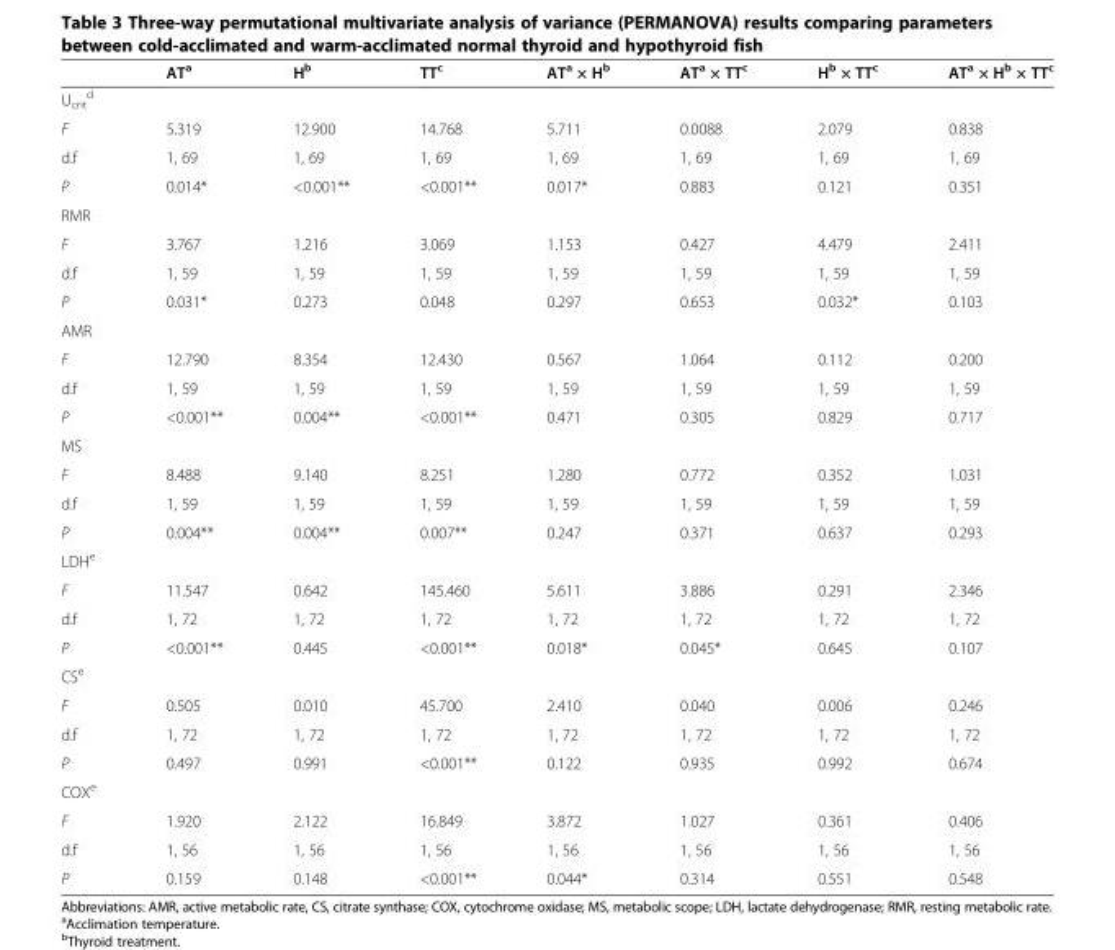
<table><thead><tr><td></td><td>AT<sup>a</sup></td><td>H<sup>b</sup></td><td>TT<sup>c</sup></td><td>AT<sup>a</sup> × H<sup>b</sup></td><td>AT<sup>a</sup> × TT<sup>c</sup></td><td>H<sup>b</sup> × TT<sup>c</sup></td><td>AT<sup>a</sup> × H<sup>b</sup> × TT<sup>c</sup></td></tr></thead><tbody><tr><td colspan="8">U<sub>crit</sub> <sup>d</sup></td></tr><tr><td>F</td><td>5.319</td><td>12.900</td><td>14.768</td><td>5.711</td><td>0.0088</td><td>2.079</td><td>0.838</td></tr><tr><td>d.f</td><td>1, 69</td><td>1, 69</td><td>1, 69</td><td>1, 69</td><td>1, 69</td><td>1, 69</td><td>1, 69</td></tr><tr><td>P</td><td>0.014*</td><td>&lt;0.001**</td><td>&lt;0.001**</td><td>0.017*</td><td>0.883</td><td>0.121</td><td>0.351</td></tr><tr><td colspan="8">RMR</td></tr><tr><td>F</td><td>3.767</td><td>1.216</td><td>3.069</td><td>1.153</td><td>0.427</td><td>4.479</td><td>2.411</td></tr><tr><td>d.f</td><td>1, 59</td><td>1, 59</td><td>1, 59</td><td>1, 59</td><td>1, 59</td><td>1, 59</td><td>1, 59</td></tr><tr><td>P</td><td>0.031*</td><td>0.273</td><td>0.048</td><td>0.297</td><td>0.653</td><td>0.032*</td><td>0.103</td></tr><tr><td colspan="8">AMR</td></tr><tr><td>F</td><td>12.790</td><td>8.354</td><td>12.430</td><td>0.567</td><td>1.064</td><td>0.112</td><td>0.200</td></tr><tr><td>d.f</td><td>1, 59</td><td>1, 59</td><td>1, 59</td><td>1, 59</td><td>1, 59</td><td>1, 59</td><td>1, 59</td></tr><tr><td>P</td><td>&lt;0.001**</td><td>0.004**</td><td>&lt;0.001**</td><td>0.471</td><td>0.305</td><td>0.829</td><td>0.717</td></tr><tr><td colspan="8">MS</td></tr><tr><td>F</td><td>8.488</td><td>9.140</td><td>8.251</td><td>1.280</td><td>0.772</td><td>0.352</td><td>1.031</td></tr><tr><td>d.f</td><td>1, 59</td><td>1, 59</td><td>1, 59</td><td>1, 59</td><td>1, 59</td><td>1, 59</td><td>1, 59</td></tr><tr><td>P</td><td>0.004**</td><td>0.004**</td><td>0.007**</td><td>0.247</td><td>0.371</td><td>0.637</td><td>0.293</td></tr><tr><td colspan="8">LDH<sup>e</sup></td></tr><tr><td>F</td><td>11.547</td><td>0.642</td><td>145.460</td><td>5.611</td><td>3.886</td><td>0.291</td><td>2.346</td></tr><tr><td>d.f</td><td>1, 72</td><td>1, 72</td><td>1, 72</td><td>1, 72</td><td>1, 72</td><td>1, 72</td><td>1, 72</td></tr><tr><td>P</td><td>&lt;0.001**</td><td>0.445</td><td>&lt;0.001**</td><td>0.018*</td><td>0.045*</td><td>0.645</td><td>0.107</td></tr><tr><td colspan="8">CS<sup>e</sup></td></tr><tr><td>F</td><td>0.505</td><td>0.010</td><td>45.700</td><td>2.410</td><td>0.040</td><td>0.006</td><td>0.246</td></tr><tr><td>d.f</td><td>1, 72</td><td>1, 72</td><td>1, 72</td><td>1, 72</td><td>1, 72</td><td>1, 72</td><td>1, 72</td></tr><tr><td>P</td><td>0.497</td><td>0.991</td><td>&lt;0.001**</td><td>0.122</td><td>0.935</td><td>0.992</td><td>0.674</td></tr><tr><td colspan="8">COX<sup>e</sup></td></tr><tr><td>F</td><td>1.920</td><td>2.122</td><td>16.849</td><td>3.872</td><td>1.027</td><td>0.361</td><td>0.406</td></tr><tr><td>d.f</td><td>1, 56</td><td>1, 56</td><td>1, 56</td><td>1, 56</td><td>1, 56</td><td>1, 56</td><td>1, 56</td></tr><tr><td>P</td><td>0.159</td><td>0.148</td><td>&lt;0.001**</td><td>0.044*</td><td>0.314</td><td>0.551</td><td>0.548</td></tr></tbody></table>